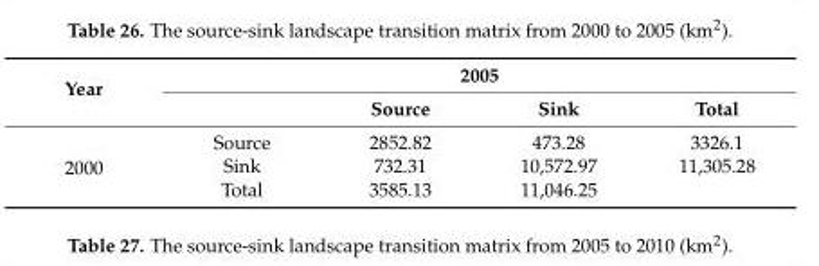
<table><thead><tr><td rowspan="2">Year</td><td colspan="4">2005</td></tr><tr><td></td><td>Source</td><td>Sink</td><td>Total</td></tr></thead><tbody><tr><td rowspan="3">2000</td><td>Source</td><td>2852.82</td><td>473.28</td><td>3326.1</td></tr><tr><td>Sink</td><td>732.31</td><td>10,572.97</td><td>11,305.28</td></tr><tr><td>Total</td><td>3585.13</td><td>11,046.25</td><td></td></tr></tbody></table>